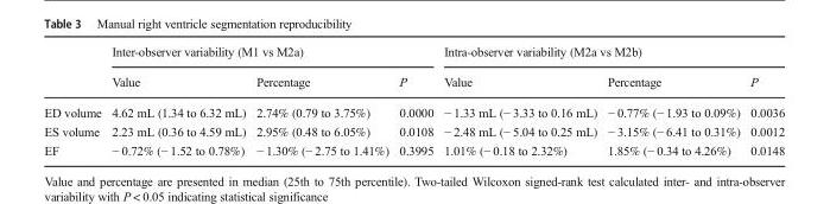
<table><thead><tr><td rowspan="2"></td><td colspan="3">Inter-observer variability (M1 vs M2a)</td><td colspan="3">Intra-observer variability (M2a vs M2b)</td></tr><tr><td>Value</td><td>Percentage</td><td>P</td><td>Value</td><td>Percentage</td><td>P</td></tr></thead><tbody><tr><td>ED volume</td><td>4.62 mL (1.34 to 6.32 mL)</td><td>2.74% (0.79 to 3.75%)</td><td>0.0000</td><td>− 1.33 mL (− 3.33 to 0.16 mL)</td><td>− 0.77% (− 1.93 to 0.09%)</td><td>0.0036</td></tr><tr><td>ES volume</td><td>2.23 mL (0.36 to 4.59 mL)</td><td>2.95% (0.48 to 6.05%)</td><td>0.0108</td><td>− 2.48 mL (− 5.04 to 0.25 mL)</td><td>− 3.15% (− 6.41 to 0.31%)</td><td>0.0012</td></tr><tr><td>EF</td><td>− 0.72% (− 1.52 to 0.78%)</td><td>− 1.30% (− 2.75 to 1.41%)</td><td>0.3995</td><td>1.01% (− 0.18 to 2.32%)</td><td>1.85% (− 0.34 to 4.26%)</td><td>0.0148</td></tr></tbody></table>